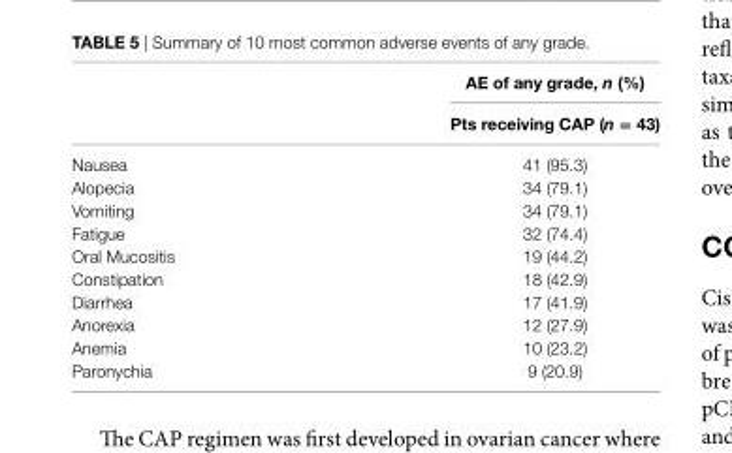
<table><thead><tr><td rowspan="2"></td><td rowspan="2">aE of any grade, n (%) Pts receiving CaP (n = 43)</td></tr><tr></tr></thead><tbody><tr><td>Nausea</td><td>41 (95.3)</td></tr><tr><td>Alopecia</td><td>34 (79.1)</td></tr><tr><td>Vomiting</td><td>34 (79.1)</td></tr><tr><td>Fatigue</td><td>32 (74.4)</td></tr><tr><td>Oral Mucositis</td><td>19 (44.2)</td></tr><tr><td>Constipation</td><td>18 (42.9)</td></tr><tr><td>Diarrhea</td><td>17 (41.9)</td></tr><tr><td>Anorexia</td><td>12 (27.9)</td></tr><tr><td>Anemia</td><td>10 (23.2)</td></tr><tr><td>Paronychia</td><td>9 (20.9)</td></tr></tbody></table>